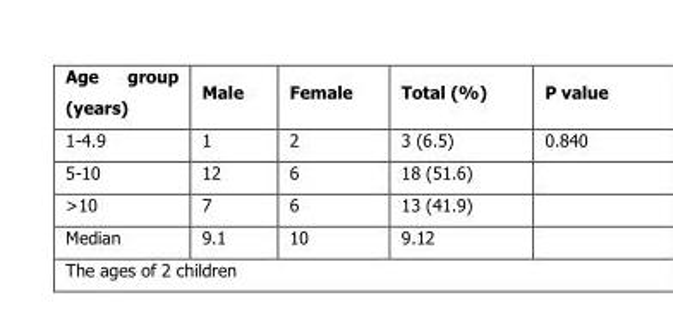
<table><thead><tr><td>Age group (years)</td><td>Male</td><td>Female</td><td>Total (%)</td><td>P value</td></tr></thead><tbody><tr><td>1-4.9</td><td>1</td><td>2</td><td>3 (6.5)</td><td>0.840</td></tr><tr><td>5-10</td><td>12</td><td>6</td><td>18 (51.6)</td><td></td></tr><tr><td>&gt;10</td><td>7</td><td>6</td><td>13 (41.9)</td><td></td></tr><tr><td>Median</td><td>9.1</td><td>10</td><td>9.12</td><td></td></tr></tbody></table>